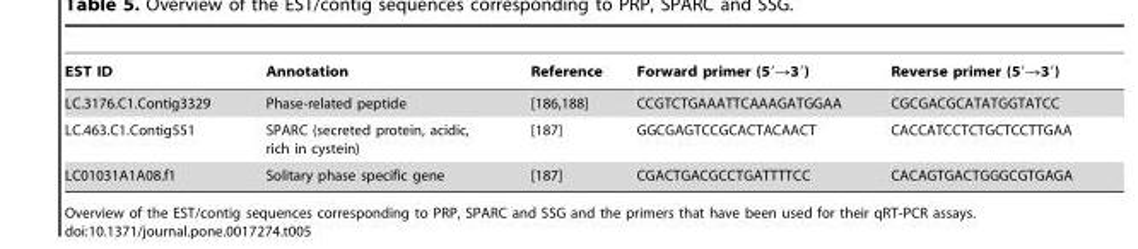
<table><thead><tr><td>EST ID</td><td>Annotation</td><td>Reference</td><td>Forward primer (5′→3′)</td><td>Reverse primer (5′→3′)</td></tr></thead><tbody><tr><td>LC.3176.C1.Contig3329</td><td>Phase-related peptide</td><td>[186,188]</td><td>CCGTCTGAAATTCAAAGATGGAA</td><td>CGCGACGCATATGGTATCC</td></tr><tr><td>LC.463.C1.Contig551</td><td>SPARC (secreted protein, acidic, rich in cystein)</td><td>[187]</td><td>GGCGAGTCCGCACTACAACT</td><td>CACCATCCTCTGCTCCTTGAA</td></tr><tr><td>LC01031A1A08.f1</td><td>Solitary phase specific gene</td><td>[187]</td><td>CGACTGACGCCTGATTTTCC</td><td>CACAGTGACTGGGCGTGAGA</td></tr></tbody></table>